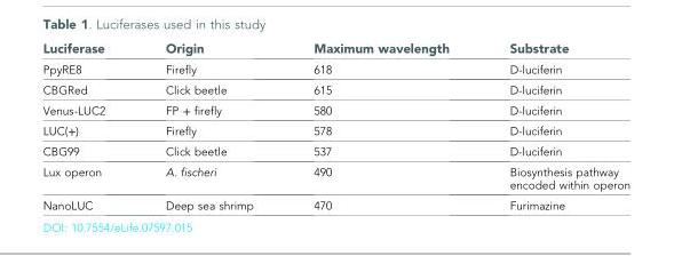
<table><thead><tr><td>Luciferase</td><td>Origin</td><td>Maximum wavelength</td><td>Substrate</td></tr></thead><tbody><tr><td>PpyRE8</td><td>Firefly</td><td>618</td><td>D-luciferin</td></tr><tr><td>CBGRed</td><td>Click beetle</td><td>615</td><td>D-luciferin</td></tr><tr><td>Venus-LUC2</td><td>FP + firefly</td><td>580</td><td>D-luciferin</td></tr><tr><td>LUC(+)</td><td>Firefly</td><td>578</td><td>D-luciferin</td></tr><tr><td>CBG99</td><td>Click beetle</td><td>537</td><td>D-luciferin</td></tr><tr><td>Lux operon</td><td>A. fischeri</td><td>490</td><td>Biosynthesis pathway encoded within operon</td></tr><tr><td>NanoLUC</td><td>Deep sea shrimp</td><td>470</td><td>Furimazine</td></tr></tbody></table>